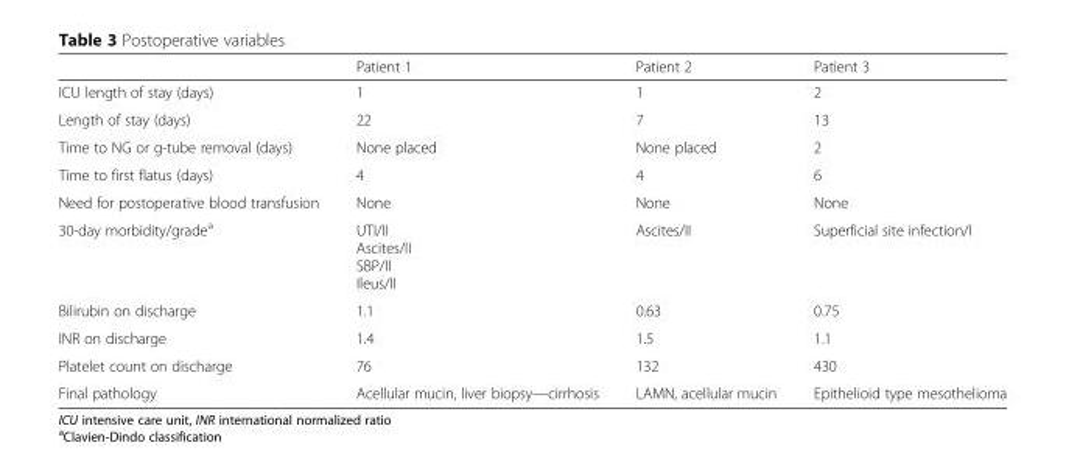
<table><thead><tr><td></td><td>Patient 1</td><td>Patient 2</td><td>Patient 3</td></tr></thead><tbody><tr><td>ICU length of stay (days)</td><td>1</td><td>1</td><td>2</td></tr><tr><td>Length of stay (days)</td><td>22</td><td>7</td><td>13</td></tr><tr><td>Time to NG or g-tube removal (days)</td><td>None placed</td><td>None placed</td><td>2</td></tr><tr><td>Time to first flatus (days)</td><td>4</td><td>4</td><td>6</td></tr><tr><td>Need for postoperative blood transfusion</td><td>None</td><td>None</td><td>None</td></tr><tr><td>30-day morbidity/grade<sup>a</sup></td><td>UTI/II Ascites/II SBP/II Ileus/II</td><td>Ascites/II</td><td>Superficial site infection/I</td></tr><tr><td>Bilirubin on discharge</td><td>1.1</td><td>0.63</td><td>0.75</td></tr><tr><td>INR on discharge</td><td>1.4</td><td>1.5</td><td>1.1</td></tr><tr><td>Platelet count on discharge</td><td>76</td><td>132</td><td>430</td></tr><tr><td>Final pathology</td><td>Acellular mucin, liver biopsy—cirrhosis</td><td>LAMN, acellular mucin</td><td>Epithelioid type mesothelioma</td></tr></tbody></table>